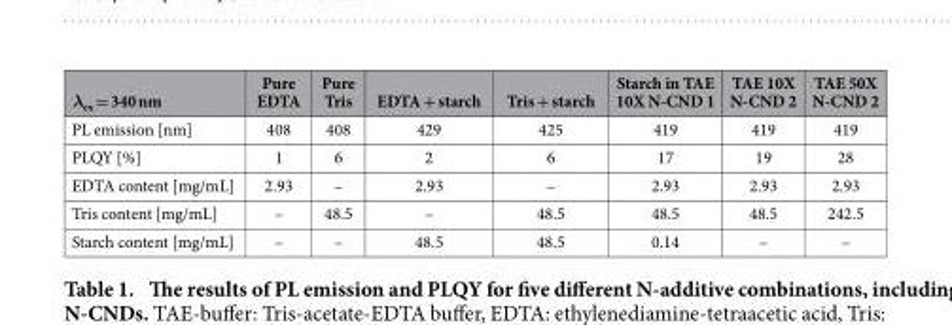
<table><thead><tr><td>λ<sub>ex</sub> = 340 nm</td><td>Pure EDTA</td><td>Pure Tris</td><td>EDTA + starch</td><td>Tris + starch</td><td>Starch in TAE 10X N-CND 1</td><td>TAE 10X N-CND 2</td><td>TAE 50X N-CND 2</td></tr></thead><tbody><tr><td>PL emission [nm]</td><td>408</td><td>408</td><td>429</td><td>425</td><td>419</td><td>419</td><td>419</td></tr><tr><td>PLQY [%]</td><td>1</td><td>6</td><td>2</td><td>6</td><td>17</td><td>19</td><td>28</td></tr><tr><td>EDTA content [mg/mL]</td><td>2.93</td><td>–</td><td>2.93</td><td>–</td><td>2.93</td><td>2.93</td><td>2.93</td></tr><tr><td>Tris content [mg/mL]</td><td>–</td><td>48.5</td><td>–</td><td>48.5</td><td>48.5</td><td>48.5</td><td>242.5</td></tr><tr><td>Starch content [mg/mL]</td><td>–</td><td>–</td><td>48.5</td><td>48.5</td><td>0.14</td><td>–</td><td>–</td></tr></tbody></table>